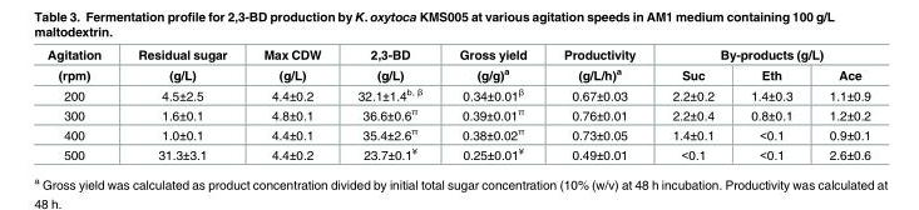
<table><thead><tr><td rowspan="2">Agitation (rpm)</td><td rowspan="2">Residual sugar (g/L)</td><td rowspan="2">Max CDW (g/L)</td><td rowspan="2">2,3-BD (g/L)</td><td rowspan="2">Gross yield (g/g)<sup>a</sup></td><td rowspan="2">Productivity (g/L/h)<sup>a</sup></td><td colspan="3">By-products (g/L)</td></tr><tr><td>Suc</td><td>Eth</td><td>Ace</td></tr></thead><tbody><tr><td>200</td><td>4.5±2.5</td><td>4.4±0.2</td><td>32.1±1.4<sup>b, β</sup></td><td>0.34±0.01<sup>β</sup></td><td>0.67±0.03</td><td>2.2±0.2</td><td>1.4±0.3</td><td>1.1±0.9</td></tr><tr><td>300</td><td>1.6±0.1</td><td>4.8±0.1</td><td>36.6±0.6<sup>π</sup></td><td>0.39±0.01<sup>π</sup></td><td>0.76±0.01</td><td>2.2±0.4</td><td>0.8±0.1</td><td>1.2±0.2</td></tr><tr><td>400</td><td>1.0±0.1</td><td>4.4±0.1</td><td>35.4±2.6<sup>π</sup></td><td>0.38±0.02<sup>π</sup></td><td>0.73±0.05</td><td>1.4±0.1</td><td>&lt;0.1</td><td>0.9±0.1</td></tr><tr><td>500</td><td>31.3±3.1</td><td>4.4±0.2</td><td>23.7±0.1<sup>¥</sup></td><td>0.25±0.01<sup>¥</sup></td><td>0.49±0.01</td><td>&lt;0.1</td><td>&lt;0.1</td><td>2.6±0.6</td></tr></tbody></table>